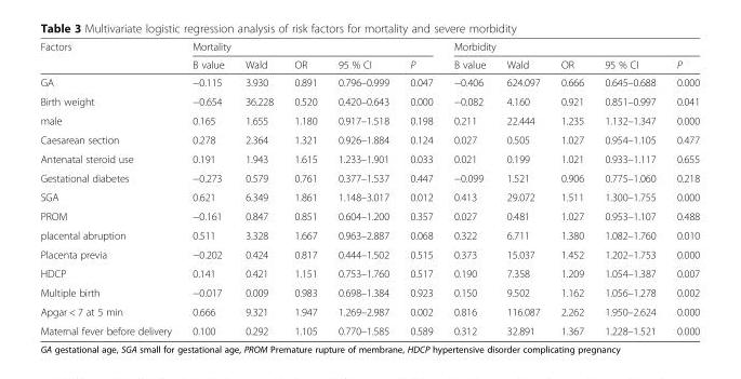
<table><thead><tr><td rowspan="2">Factors</td><td colspan="5">Mortality</td><td colspan="5">Morbidity</td></tr><tr><td>B value</td><td>Wald</td><td>OR</td><td>95 % CI</td><td>P</td><td>B value</td><td>Wald</td><td>OR</td><td>95 % CI</td><td>P</td></tr></thead><tbody><tr><td>GA</td><td>−0.115</td><td>3.930</td><td>0.891</td><td>0.796–0.999</td><td>0.047</td><td>−0.406</td><td>624.097</td><td>0.666</td><td>0.645–0.688</td><td>0.000</td></tr><tr><td>Birth weight</td><td>−0.654</td><td>36.228</td><td>0.520</td><td>0.420–0.643</td><td>0.000</td><td>−0.082</td><td>4.160</td><td>0.921</td><td>0.851–0.997</td><td>0.041</td></tr><tr><td>male</td><td>0.165</td><td>1.655</td><td>1.180</td><td>0.917–1.518</td><td>0.198</td><td>0.211</td><td>22.444</td><td>1.235</td><td>1.132–1.347</td><td>0.000</td></tr><tr><td>Caesarean section</td><td>0.278</td><td>2.364</td><td>1.321</td><td>0.926–1.884</td><td>0.124</td><td>0.027</td><td>0.505</td><td>1.027</td><td>0.954–1.105</td><td>0.477</td></tr><tr><td>Antenatal steroid use</td><td>0.191</td><td>1.943</td><td>1.615</td><td>1.233–1.901</td><td>0.033</td><td>0.021</td><td>0.199</td><td>1.021</td><td>0.933–1.117</td><td>0.655</td></tr><tr><td>Gestational diabetes</td><td>−0.273</td><td>0.579</td><td>0.761</td><td>0.377–1.537</td><td>0.447</td><td>−0.099</td><td>1.521</td><td>0.906</td><td>0.775–1.060</td><td>0.218</td></tr><tr><td>SGA</td><td>0.621</td><td>6.349</td><td>1.861</td><td>1.148–3.017</td><td>0.012</td><td>0.413</td><td>29.072</td><td>1.511</td><td>1.300–1.755</td><td>0.000</td></tr><tr><td>PROM</td><td>−0.161</td><td>0.847</td><td>0.851</td><td>0.604–1.200</td><td>0.357</td><td>0.027</td><td>0.481</td><td>1.027</td><td>0.953–1.107</td><td>0.488</td></tr><tr><td>placental abruption</td><td>0.511</td><td>3.328</td><td>1.667</td><td>0.963–2.887</td><td>0.068</td><td>0.322</td><td>6.711</td><td>1.380</td><td>1.082–1.760</td><td>0.010</td></tr><tr><td>Placenta previa</td><td>−0.202</td><td>0.424</td><td>0.817</td><td>0.444–1.502</td><td>0.515</td><td>0.373</td><td>15.037</td><td>1.452</td><td>1.202–1.753</td><td>0.000</td></tr><tr><td>HDCP</td><td>0.141</td><td>0.421</td><td>1.151</td><td>0.753–1.760</td><td>0.517</td><td>0.190</td><td>7.358</td><td>1.209</td><td>1.054–1.387</td><td>0.007</td></tr><tr><td>Multiple birth</td><td>−0.017</td><td>0.009</td><td>0.983</td><td>0.698–1.384</td><td>0.923</td><td>0.150</td><td>9.502</td><td>1.162</td><td>1.056–1.278</td><td>0.002</td></tr><tr><td>Apgar &lt; 7 at 5 min</td><td>0.666</td><td>9.321</td><td>1.947</td><td>1.269–2.987</td><td>0.002</td><td>0.816</td><td>116.087</td><td>2.262</td><td>1.950–2.624</td><td>0.000</td></tr><tr><td>Maternal fever before delivery</td><td>0.100</td><td>0.292</td><td>1.105</td><td>0.770–1.585</td><td>0.589</td><td>0.312</td><td>32.891</td><td>1.367</td><td>1.228–1.521</td><td>0.000</td></tr></tbody></table>